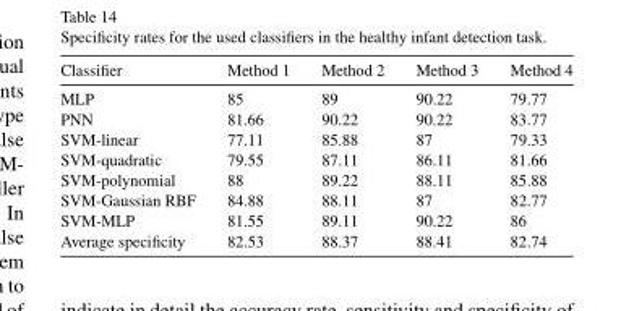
<table><thead><tr><td>Classifier</td><td>Method 1</td><td>Method 2</td><td>Method 3</td><td>Method 4</td></tr></thead><tbody><tr><td>MLP</td><td>85</td><td>89</td><td>90.22</td><td>79.77</td></tr><tr><td>PNN</td><td>81.66</td><td>90.22</td><td>90.22</td><td>83.77</td></tr><tr><td>SVM-linear</td><td>77.11</td><td>85.88</td><td>87</td><td>79.33</td></tr><tr><td>SVM-quadratic</td><td>79.55</td><td>87.11</td><td>86.11</td><td>81.66</td></tr><tr><td>SVM-polynomial</td><td>88</td><td>89.22</td><td>88.11</td><td>85.88</td></tr><tr><td>SVM-Gaussian RBF</td><td>84.88</td><td>88.11</td><td>87</td><td>82.77</td></tr><tr><td>SVM-MLP</td><td>81.55</td><td>89.11</td><td>90.22</td><td>86</td></tr><tr><td>Average specificity</td><td>82.53</td><td>88.37</td><td>88.41</td><td>82.74</td></tr></tbody></table>